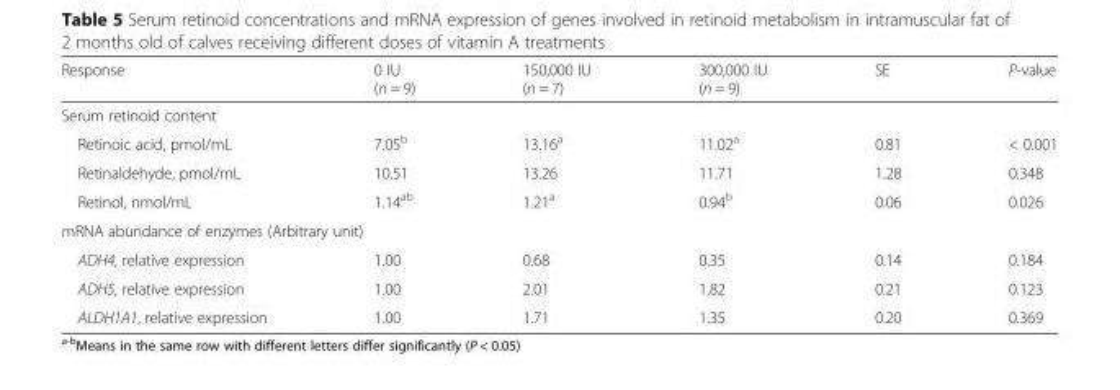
<table><thead><tr><td>Response</td><td>0 IU (n = 9)</td><td>150,000 IU (n = 7)</td><td>300,000 IU (n = 9)</td><td>SE</td><td>P-value</td></tr></thead><tbody><tr><td colspan="6">Serum retinoid content</td></tr><tr><td>Retinoic acid, pmol/mL</td><td>7.05<sup>b</sup></td><td>13.16<sup>a</sup></td><td>11.02<sup>a</sup></td><td>0.81</td><td>&lt; 0.001</td></tr><tr><td>Retinaldehyde, pmol/mL</td><td>10.51</td><td>13.26</td><td>11.71</td><td>1.28</td><td>0.348</td></tr><tr><td>Retinol, nmol/mL</td><td>1.14<sup>ab</sup></td><td>1.21<sup>a</sup></td><td>0.94<sup>b</sup></td><td>0.06</td><td>0.026</td></tr><tr><td colspan="6">mRNA abundance of enzymes (Arbitrary unit)</td></tr><tr><td>ADH4, relative expression</td><td>1.00</td><td>0.68</td><td>0.35</td><td>0.14</td><td>0.184</td></tr><tr><td>ADH5, relative expression</td><td>1.00</td><td>2.01</td><td>1.82</td><td>0.21</td><td>0.123</td></tr><tr><td>ALDH1A1, relative expression</td><td>1.00</td><td>1.71</td><td>1.35</td><td>0.20</td><td>0.369</td></tr></tbody></table>